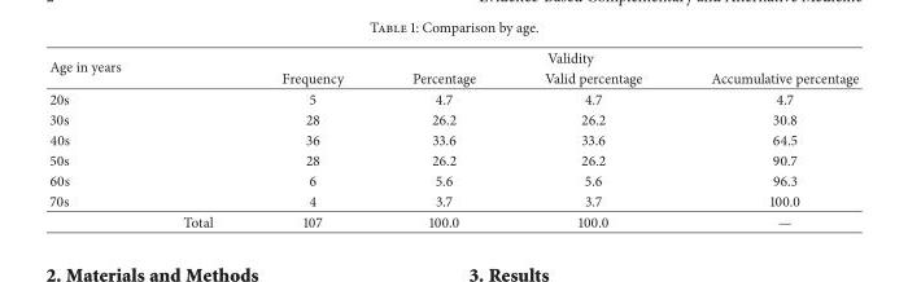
<table><thead><tr><td rowspan="2">Age in years</td><td rowspan="2"></td><td colspan="4">Validity</td></tr><tr><td>Frequency</td><td>Percentage</td><td>Valid percentage</td><td>Accumulative percentage</td></tr></thead><tbody><tr><td>20s</td><td></td><td>5</td><td>4.7</td><td>4.7</td><td>4.7</td></tr><tr><td>30s</td><td></td><td>28</td><td>26.2</td><td>26.2</td><td>30.8</td></tr><tr><td>40s</td><td></td><td>36</td><td>33.6</td><td>33.6</td><td>64.5</td></tr><tr><td>50s</td><td></td><td>28</td><td>26.2</td><td>26.2</td><td>90.7</td></tr><tr><td>60s</td><td></td><td>6</td><td>5.6</td><td>5.6</td><td>96.3</td></tr><tr><td rowspan="2">70s</td><td></td><td>4</td><td>3.7</td><td>3.7</td><td>100.0</td></tr><tr><td>Total</td><td>107</td><td>100.0</td><td>100.0</td><td>—</td></tr></tbody></table>